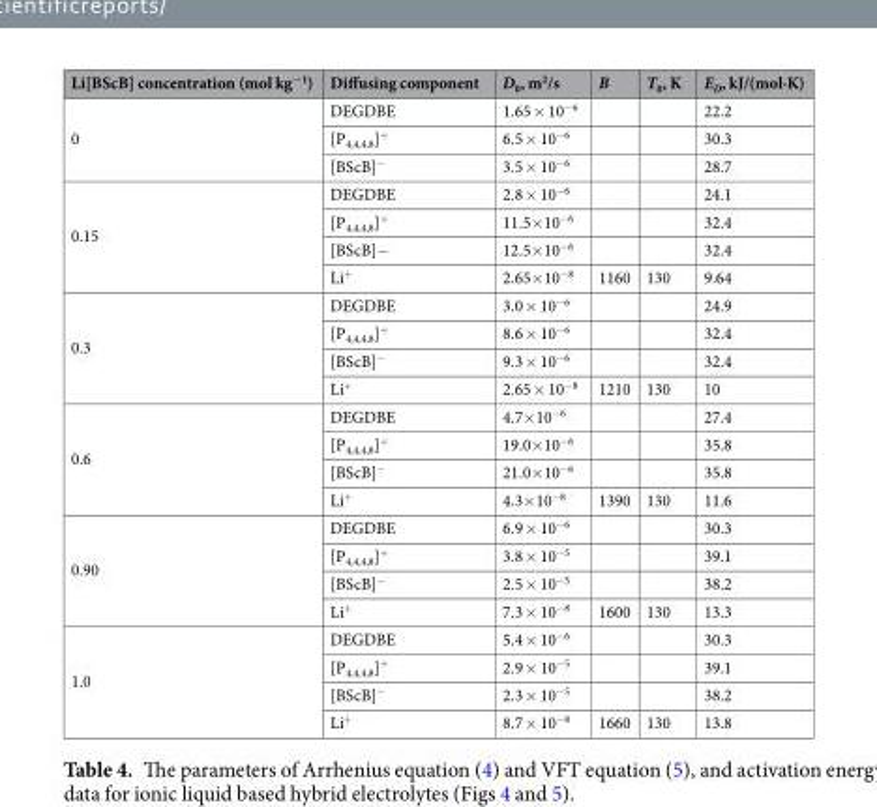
<table><thead><tr><td>Li[BScB] concentration (mol kg<sup>−1</sup>)</td><td>Diffusing component</td><td>D<sub>0</sub>, m<sup>2</sup>/s</td><td>B</td><td>T<sub>0</sub>, K</td><td>E<sub>D</sub>, kJ/(mol·K)</td></tr></thead><tbody><tr><td rowspan="3">0</td><td>DEGDBE</td><td>1.65 × 10<sup>−6</sup></td><td></td><td></td><td>22.2</td></tr><tr><td>[P<sub>4,4,4,8</sub>]<sup>+</sup></td><td>6.5 × 10<sup>−6</sup></td><td></td><td></td><td>30.3</td></tr><tr><td>[BScB]<sup>−</sup></td><td>3.5 × 10<sup>−6</sup></td><td></td><td></td><td>28.7</td></tr><tr><td rowspan="4">0.15</td><td>DEGDBE</td><td>2.8 × 10<sup>−6</sup></td><td></td><td></td><td>24.1</td></tr><tr><td>[P<sub>4,4,4,8</sub>]<sup>+</sup></td><td>11.5×10<sup>−6</sup></td><td></td><td></td><td>32.4</td></tr><tr><td>[BScB]−</td><td>12.5×10<sup>−6</sup></td><td></td><td></td><td>32.4</td></tr><tr><td>Li<sup>+</sup></td><td>2.65×10<sup>−8</sup></td><td>1160</td><td>130</td><td>9.64</td></tr><tr><td rowspan="4">0.3</td><td>DEGDBE</td><td>3.0 × 10<sup>−6</sup></td><td></td><td></td><td>24.9</td></tr><tr><td>[P<sub>4,4,4,8</sub>]<sup>+</sup></td><td>8.6 × 10<sup>−6</sup></td><td></td><td></td><td>32.4</td></tr><tr><td>[BScB]<sup>−</sup></td><td>9.3 × 10<sup>−6</sup></td><td></td><td></td><td>32.4</td></tr><tr><td>Li<sup>+</sup></td><td>2.65 × 10<sup>−8</sup></td><td>1210</td><td>130</td><td>10</td></tr><tr><td rowspan="4">0.6</td><td>DEGDBE</td><td>4.7×10<sup>−6</sup></td><td></td><td></td><td>27.4</td></tr><tr><td>[P<sub>4,4,4,8</sub>]<sup>+</sup></td><td>19.0×10<sup>−6</sup></td><td></td><td></td><td>35.8</td></tr><tr><td>[BScB]<sup>−</sup></td><td>21.0×10<sup>−6</sup></td><td></td><td></td><td>35.8</td></tr><tr><td>Li<sup>+</sup></td><td>4.3×10<sup>−8</sup></td><td>1390</td><td>130</td><td>11.6</td></tr><tr><td rowspan="4">0.90</td><td>DEGDBE</td><td>6.9 × 10<sup>−6</sup></td><td></td><td></td><td>30.3</td></tr><tr><td>[P<sub>4,4,4,8</sub>]<sup>+</sup></td><td>3.8 × 10<sup>−5</sup></td><td></td><td></td><td>39.1</td></tr><tr><td>[BScB]<sup>−</sup></td><td>2.5 × 10<sup>−5</sup></td><td></td><td></td><td>38.2</td></tr><tr><td>Li<sup>+</sup></td><td>7.3 × 10<sup>−8</sup></td><td>1600</td><td>130</td><td>13.3</td></tr><tr><td rowspan="4">1.0</td><td>DEGDBE</td><td>5.4 × 10<sup>−6</sup></td><td></td><td></td><td>30.3</td></tr><tr><td>[P<sub>4,4,4,8</sub>]<sup>+</sup></td><td>2.9 × 10<sup>−5</sup></td><td></td><td></td><td>39.1</td></tr><tr><td>[BScB]<sup>−</sup></td><td>2.3 × 10<sup>−5</sup></td><td></td><td></td><td>38.2</td></tr><tr><td>Li<sup>+</sup></td><td>8.7 × 10<sup>−8</sup></td><td>1660</td><td>130</td><td>13.8</td></tr></tbody></table>